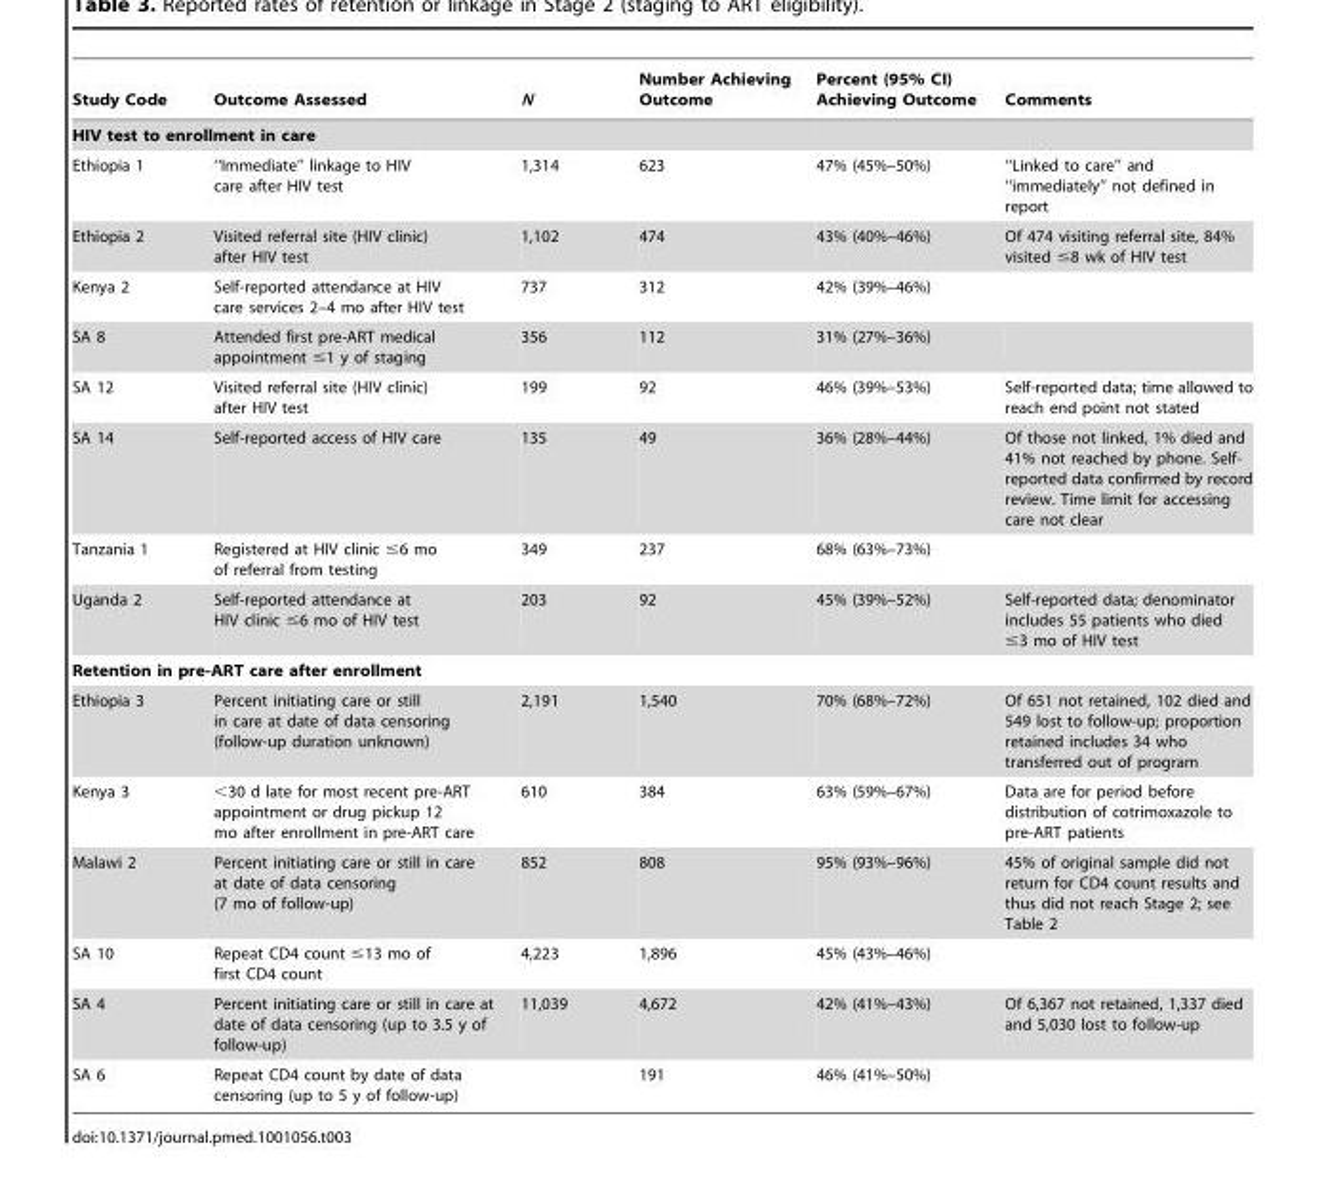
<table><thead><tr><td>Study Code</td><td>Outcome Assessed</td><td>N</td><td>Number Achieving Outcome</td><td>Percent (95% CI) Achieving Outcome</td><td>Comments</td></tr></thead><tbody><tr><td colspan="6">HIV test to enrollment in care</td></tr><tr><td>Ethiopia 1</td><td>‘‘Immediate’’ linkage to HIV care after HIV test</td><td>1,314</td><td>623</td><td>47% (45%–50%)</td><td>‘‘Linked to care’’ and ‘‘immediately’’ not defined in report</td></tr><tr><td>Ethiopia 2</td><td>Visited referral site (HIV clinic) after HIV test</td><td>1,102</td><td>474</td><td>43% (40%–46%)</td><td>Of 474 visiting referral site, 84% visited ≤8 wk of HIV test</td></tr><tr><td>Kenya 2</td><td>Self-reported attendance at HIV care services 2–4 mo after HIV test</td><td>737</td><td>312</td><td>42% (39%–46%)</td><td></td></tr><tr><td>SA 8</td><td>Attended first pre-ART medical appointment ≤1 y of staging</td><td>356</td><td>112</td><td>31% (27%–36%)</td><td></td></tr><tr><td>SA 12</td><td>Visited referral site (HIV clinic) after HIV test</td><td>199</td><td>92</td><td>46% (39%–53%)</td><td>Self-reported data; time allowed to reach end point not stated</td></tr><tr><td>SA 14</td><td>Self-reported access of HIV care</td><td>135</td><td>49</td><td>36% (28%–44%)</td><td>Of those not linked, 1% died and 41% not reached by phone. Self- reported data confirmed by record review. Time limit for accessing care not clear</td></tr><tr><td>Tanzania 1</td><td>Registered at HIV clinic ≤6 mo of referral from testing</td><td>349</td><td>237</td><td>68% (63%–73%)</td><td></td></tr><tr><td>Uganda 2</td><td>Self-reported attendance at HIV clinic ≤6 mo of HIV test</td><td>203</td><td>92</td><td>45% (39%–52%)</td><td>Self-reported data; denominator includes 55 patients who died ≤3 mo of HIV test</td></tr><tr><td colspan="6">Retention in pre-ART care after enrollment</td></tr><tr><td>Ethiopia 3</td><td>Percent initiating care or still in care at date of data censoring (follow-up duration unknown)</td><td>2,191</td><td>1,540</td><td>70% (68%–72%)</td><td>Of 651 not retained, 102 died and 549 lost to follow-up; proportion retained includes 34 who transferred out of program</td></tr><tr><td>Kenya 3</td><td>&lt;30 d late for most recent pre-ART appointment or drug pickup 12 mo after enrollment in pre-ART care</td><td>610</td><td>384</td><td>63% (59%–67%)</td><td>Data are for period before distribution of cotrimoxazole to pre-ART patients</td></tr><tr><td>Malawi 2</td><td>Percent initiating care or still in care at date of data censoring (7 mo of follow-up)</td><td>852</td><td>808</td><td>95% (93%–96%)</td><td>45% of original sample did not return for CD4 count results and thus did not reach Stage 2; see Table 2</td></tr><tr><td>SA 10</td><td>Repeat CD4 count ≤13 mo of first CD4 count</td><td>4,223</td><td>1,896</td><td>45% (43%–46%)</td><td></td></tr><tr><td>SA 4</td><td>Percent initiating care or still in care at date of data censoring (up to 3.5 y of follow-up)</td><td>11,039</td><td>4,672</td><td>42% (41%–43%)</td><td>Of 6,367 not retained, 1,337 died and 5,030 lost to follow-up</td></tr><tr><td>SA 6</td><td>Repeat CD4 count by date of data censoring (up to 5 y of follow-up)</td><td></td><td>191</td><td>46% (41%–50%)</td><td></td></tr></tbody></table>